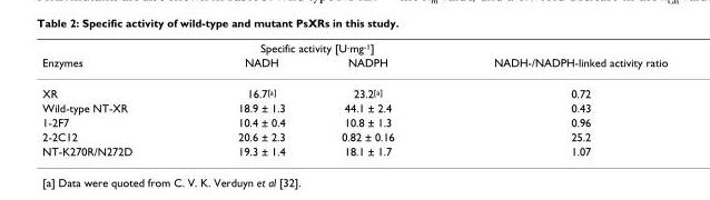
<table><thead><tr><td rowspan="2">Enzymes</td><td colspan="2">Specific activity [U·mg<sup>-1</sup>]</td><td rowspan="2">NADH-/NADPH-linked activity ratio</td></tr><tr><td>NADH</td><td>NADPH</td></tr></thead><tbody><tr><td>XR</td><td>16.7<sup>[a]</sup></td><td>23.2<sup>[a]</sup></td><td>0.72</td></tr><tr><td>Wild-type NT-XR</td><td>18.9 ± 1.3</td><td>44.1 ± 2.4</td><td>0.43</td></tr><tr><td>1-2F7</td><td>10.4 ± 0.4</td><td>10.8 ± 1.3</td><td>0.96</td></tr><tr><td>2-2C12</td><td>20.6 ± 2.3</td><td>0.82 ± 0.16</td><td>25.2</td></tr><tr><td>NT-K270R/N272D</td><td>19.3 ± 1.4</td><td>18.1 ± 1.7</td><td>1.07</td></tr></tbody></table>